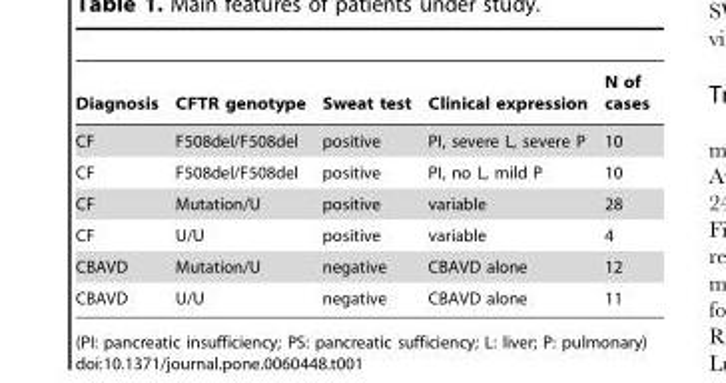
<table><thead><tr><td>Diagnosis</td><td>CFTR genotype</td><td>Sweat test</td><td>Clinical expression</td><td>N of cases</td></tr></thead><tbody><tr><td>CF</td><td>F508del/F508del</td><td>positive</td><td>PI, severe L, severe P</td><td>10</td></tr><tr><td>CF</td><td>F508del/F508del</td><td>positive</td><td>PI, no L, mild P</td><td>10</td></tr><tr><td>CF</td><td>Mutation/U</td><td>positive</td><td>variable</td><td>28</td></tr><tr><td>CF</td><td>U/U</td><td>positive</td><td>variable</td><td>4</td></tr><tr><td>CBAVD</td><td>Mutation/U</td><td>negative</td><td>CBAVD alone</td><td>12</td></tr><tr><td>CBAVD</td><td>U/U</td><td>negative</td><td>CBAVD alone</td><td>11</td></tr></tbody></table>